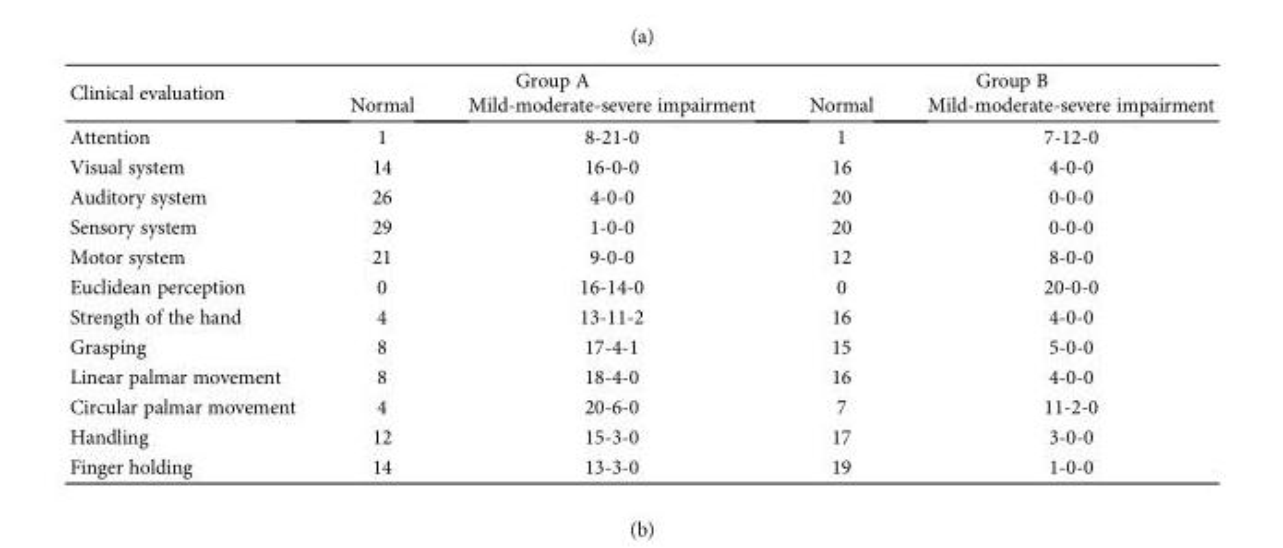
<table><thead><tr><td rowspan="2">Clinical evaluation</td><td colspan="2">Group A</td><td colspan="2">Group B</td></tr><tr><td>Normal</td><td>Mild-moderate-severe impairment</td><td>Normal</td><td>Mild-moderate-severe impairment</td></tr></thead><tbody><tr><td>Attention</td><td>1</td><td>8-21-0</td><td>1</td><td>7-12-0</td></tr><tr><td>Visual system</td><td>14</td><td>16-0-0</td><td>16</td><td>4-0-0</td></tr><tr><td>Auditory system</td><td>26</td><td>4-0-0</td><td>20</td><td>0-0-0</td></tr><tr><td>Sensory system</td><td>29</td><td>1-0-0</td><td>20</td><td>0-0-0</td></tr><tr><td>Motor system</td><td>21</td><td>9-0-0</td><td>12</td><td>8-0-0</td></tr><tr><td>Euclidean perception</td><td>0</td><td>16-14-0</td><td>0</td><td>20-0-0</td></tr><tr><td>Strength of the hand</td><td>4</td><td>13-11-2</td><td>16</td><td>4-0-0</td></tr><tr><td>Grasping</td><td>8</td><td>17-4-1</td><td>15</td><td>5-0-0</td></tr><tr><td>Linear palmar movement</td><td>8</td><td>18-4-0</td><td>16</td><td>4-0-0</td></tr><tr><td>Circular palmar movement</td><td>4</td><td>20-6-0</td><td>7</td><td>11-2-0</td></tr><tr><td>Handling</td><td>12</td><td>15-3-0</td><td>17</td><td>3-0-0</td></tr><tr><td>Finger holding</td><td>14</td><td>13-3-0</td><td>19</td><td>1-0-0</td></tr></tbody></table>